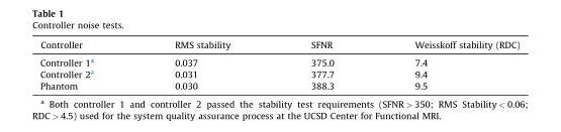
<table><thead><tr><td>Controller</td><td>RMS stability</td><td>SFNR</td><td>Weisskoff stability (RDC)</td></tr></thead><tbody><tr><td>Controller 1<sup>a</sup></td><td>0.037</td><td>375.0</td><td>7.4</td></tr><tr><td>Controller 2<sup>a</sup></td><td>0.031</td><td>377.7</td><td>9.4</td></tr><tr><td>Phantom</td><td>0.030</td><td>388.3</td><td>9.5</td></tr></tbody></table>